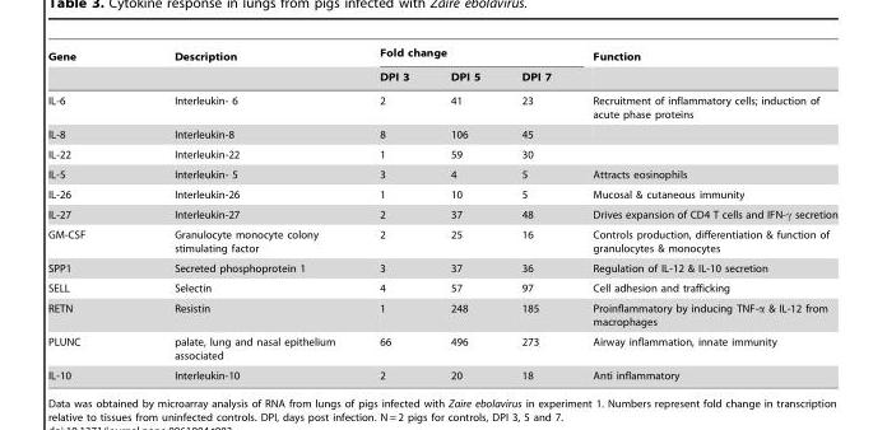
<table><thead><tr><td rowspan="2">Gene</td><td rowspan="2">Description</td><td colspan="3">Fold change</td><td rowspan="2">Function</td></tr><tr><td>DPI 3</td><td>DPI 5</td><td>DPI 7</td></tr></thead><tbody><tr><td>IL-6</td><td>Interleukin- 6</td><td>2</td><td>41</td><td>23</td><td>Recruitment of inflammatory cells; induction of acute phase proteins</td></tr><tr><td>IL-8</td><td>Interleukin-8</td><td>8</td><td>106</td><td>45</td><td></td></tr><tr><td>IL-22</td><td>Interleukin-22</td><td>1</td><td>59</td><td>30</td><td></td></tr><tr><td>IL-5</td><td>Interleukin- 5</td><td>3</td><td>4</td><td>5</td><td>Attracts eosinophils</td></tr><tr><td>IL-26</td><td>Interleukin-26</td><td>1</td><td>10</td><td>5</td><td>Mucosal &amp; cutaneous immunity</td></tr><tr><td>IL-27</td><td>Interleukin-27</td><td>2</td><td>37</td><td>48</td><td>Drives expansion of CD4 T cells and IFN-γ secretion</td></tr><tr><td>GM-CSF</td><td>Granulocyte monocyte colony stimulating factor</td><td>2</td><td>25</td><td>16</td><td>Controls production, differentiation &amp; function of granulocytes &amp; monocytes</td></tr><tr><td>SPP1</td><td>Secreted phosphoprotein 1</td><td>3</td><td>37</td><td>36</td><td>Regulation of IL-12 &amp; IL-10 secretion</td></tr><tr><td>SELL</td><td>Selectin</td><td>4</td><td>57</td><td>97</td><td>Cell adhesion and trafficking</td></tr><tr><td>RETN</td><td>Resistin</td><td>1</td><td>248</td><td>185</td><td>Proinflammatory by inducing TNF-α &amp; IL-12 from macrophages</td></tr><tr><td>PLUNC</td><td>palate, lung and nasal epithelium associated</td><td>66</td><td>496</td><td>273</td><td>Airway inflammation, innate immunity</td></tr><tr><td>IL-10</td><td>Interleukin-10</td><td>2</td><td>20</td><td>18</td><td>Anti inflammatory</td></tr></tbody></table>